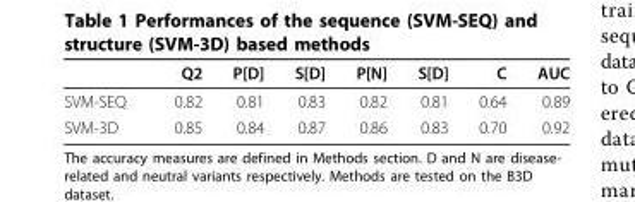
<table><thead><tr><td></td><td>Q2</td><td>P[D]</td><td>S[D]</td><td>P[N]</td><td>S[D]</td><td>C</td><td>AUC</td></tr></thead><tbody><tr><td>SVM-SEQ</td><td>0.82</td><td>0.81</td><td>0.83</td><td>0.82</td><td>0.81</td><td>0.64</td><td>0.89</td></tr><tr><td>SVM-3D</td><td>0.85</td><td>0.84</td><td>0.87</td><td>0.86</td><td>0.83</td><td>0.70</td><td>0.92</td></tr></tbody></table>